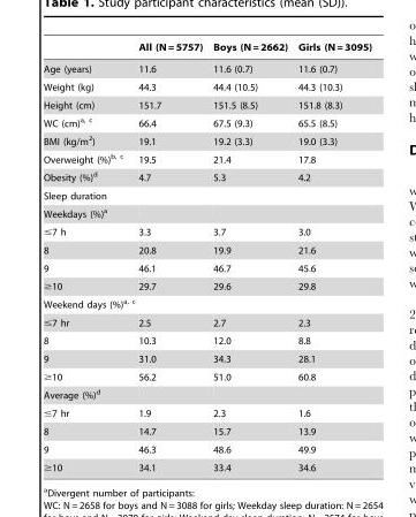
<table><thead><tr><td></td><td>All (N = 5757)</td><td>Boys (N = 2662)</td><td>Girls (N = 3095)</td></tr></thead><tbody><tr><td>Age (years)</td><td>11.6</td><td>11.6 (0.7)</td><td>11.6 (0.7)</td></tr><tr><td>Weight (kg)</td><td>44.3</td><td>44.4 (10.5)</td><td>44.3 (10.3)</td></tr><tr><td>Height (cm)</td><td>151.7</td><td>151.5 (8.5)</td><td>151.8 (8.3)</td></tr><tr><td>WC (cm)a, c</td><td>66.4</td><td>67.5 (9.3)</td><td>65.5 (8.5)</td></tr><tr><td>BMI (kg/m<sup>2</sup>)</td><td>19.1</td><td>19.2 (3.3)</td><td>19.0 (3.3)</td></tr><tr><td>Overweight (%)b, c</td><td>19.5</td><td>21.4</td><td>17.8</td></tr><tr><td>Obesity (%)<sup>d</sup></td><td>4.7</td><td>5.3</td><td>4.2</td></tr><tr><td colspan="4">Sleep duration</td></tr><tr><td colspan="4">Weekdays (%)<sup>a</sup></td></tr><tr><td>≤7 h</td><td>3.3</td><td>3.7</td><td>3.0</td></tr><tr><td>8</td><td>20.8</td><td>19.9</td><td>21.6</td></tr><tr><td>9</td><td>46.1</td><td>46.7</td><td>45.6</td></tr><tr><td>≥10</td><td>29.7</td><td>29.6</td><td>29.8</td></tr><tr><td colspan="4">Weekend days (%)a, c</td></tr><tr><td>≤7 hr</td><td>2.5</td><td>2.7</td><td>2.3</td></tr><tr><td>8</td><td>10.3</td><td>12.0</td><td>8.8</td></tr><tr><td>9</td><td>31.0</td><td>34.3</td><td>28.1</td></tr><tr><td>≥10</td><td>56.2</td><td>51.0</td><td>60.8</td></tr><tr><td colspan="4">Average (%)<sup>d</sup></td></tr><tr><td>≤7 hr</td><td>1.9</td><td>2.3</td><td>1.6</td></tr><tr><td>8</td><td>14.7</td><td>15.7</td><td>13.9</td></tr><tr><td>9</td><td>46.3</td><td>48.6</td><td>49.9</td></tr><tr><td>≥10</td><td>34.1</td><td>33.4</td><td>34.6</td></tr></tbody></table>